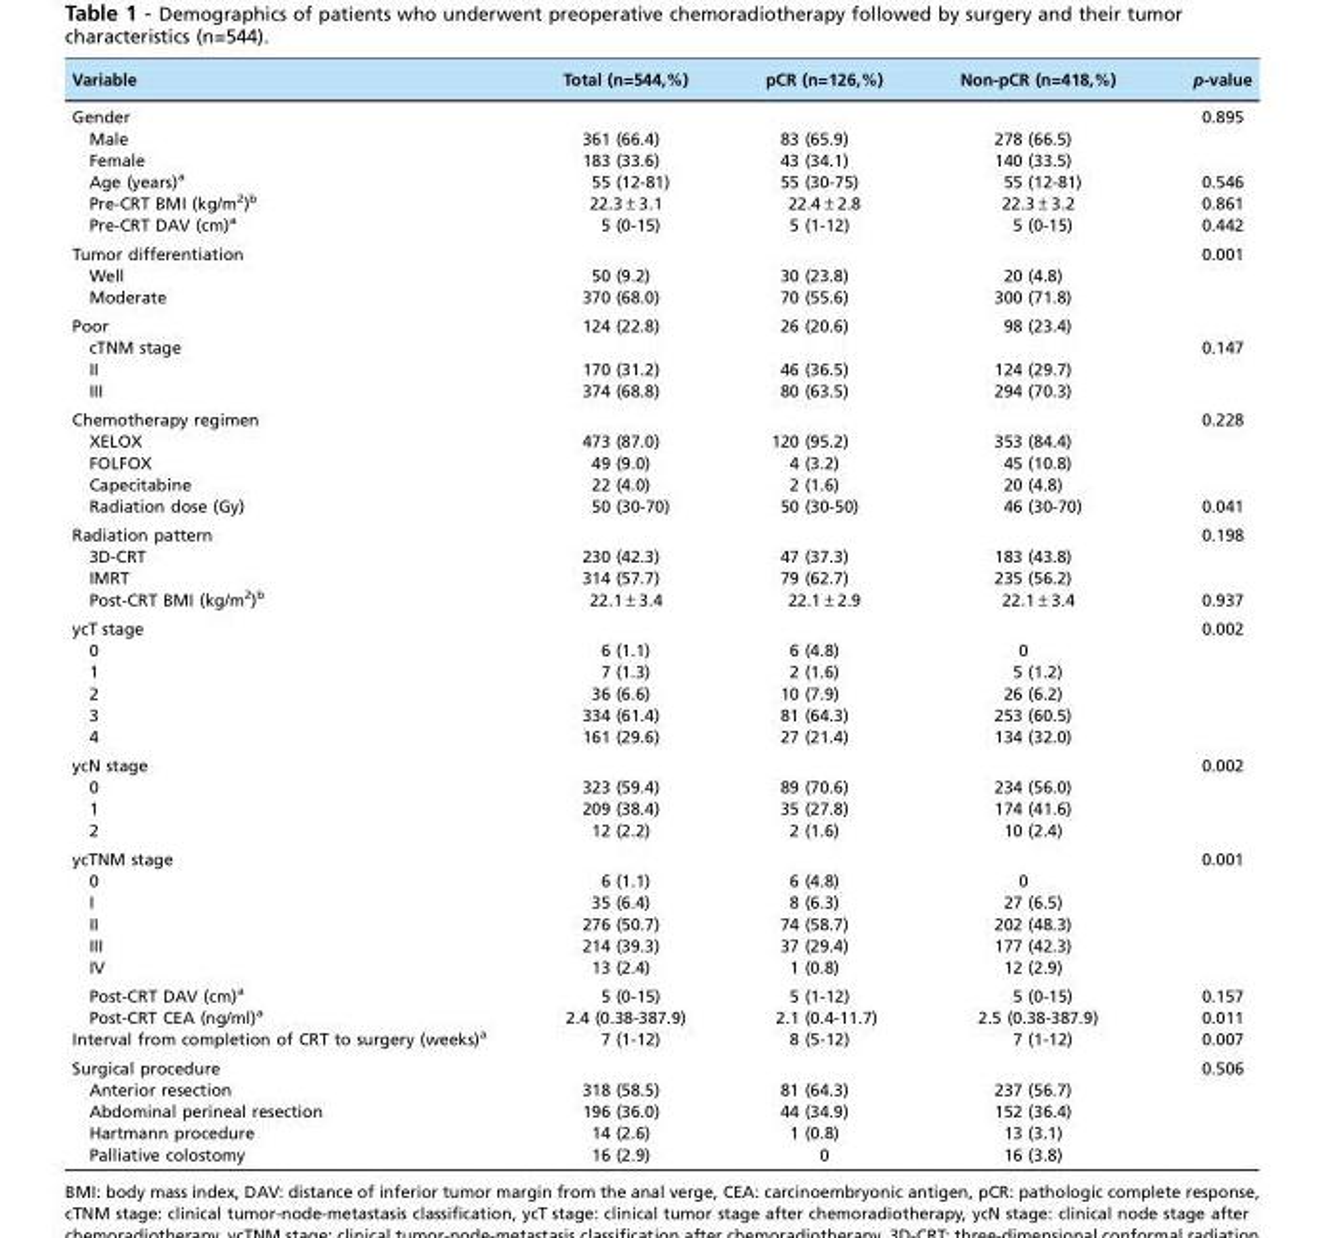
<table><thead><tr><td>Variable</td><td>Total (n=544,%)</td><td>pCR (n=126,%)</td><td>Non-pCR (n=418,%)</td><td>p-value</td></tr></thead><tbody><tr><td>Gender</td><td></td><td></td><td></td><td>0.895</td></tr><tr><td>Male</td><td>361 (66.4)</td><td>83 (65.9)</td><td>278 (66.5)</td><td></td></tr><tr><td>Female</td><td>183 (33.6)</td><td>43 (34.1)</td><td>140 (33.5)</td><td></td></tr><tr><td>Age (years)<sup>a</sup></td><td>55 (12-81)</td><td>55 (30-75)</td><td>55 (12-81)</td><td>0.546</td></tr><tr><td>Pre-CRT BMI (kg/m<sup>2</sup>)<sup>b</sup></td><td>22.3±3.1</td><td>22.4±2.8</td><td>22.3±3.2</td><td>0.861</td></tr><tr><td>Pre-CRT DAV (cm)<sup>a</sup></td><td>5 (0-15)</td><td>5 (1-12)</td><td>5 (0-15)</td><td>0.442</td></tr><tr><td>Tumor differentiation</td><td></td><td></td><td></td><td>0.001</td></tr><tr><td>Well</td><td>50 (9.2)</td><td>30 (23.8)</td><td>20 (4.8)</td><td></td></tr><tr><td>Moderate</td><td>370 (68.0)</td><td>70 (55.6)</td><td>300 (71.8)</td><td></td></tr><tr><td>Poor</td><td>124 (22.8)</td><td>26 (20.6)</td><td>98 (23.4)</td><td></td></tr><tr><td>cTNM stage</td><td></td><td></td><td></td><td>0.147</td></tr><tr><td>II</td><td>170 (31.2)</td><td>46 (36.5)</td><td>124 (29.7)</td><td></td></tr><tr><td>III</td><td>374 (68.8)</td><td>80 (63.5)</td><td>294 (70.3)</td><td></td></tr><tr><td>Chemotherapy regimen</td><td></td><td></td><td></td><td>0.228</td></tr><tr><td>XELOX</td><td>473 (87.0)</td><td>120 (95.2)</td><td>353 (84.4)</td><td></td></tr><tr><td>FOLFOX</td><td>49 (9.0)</td><td>4 (3.2)</td><td>45 (10.8)</td><td></td></tr><tr><td>Capecitabine</td><td>22 (4.0)</td><td>2 (1.6)</td><td>20 (4.8)</td><td></td></tr><tr><td>Radiation dose (Gy)</td><td>50 (30-70)</td><td>50 (30-50)</td><td>46 (30-70)</td><td>0.041</td></tr><tr><td>Radiation pattern</td><td></td><td></td><td></td><td>0.198</td></tr><tr><td>3D-CRT</td><td>230 (42.3)</td><td>47 (37.3)</td><td>183 (43.8)</td><td></td></tr><tr><td>IMRT</td><td>314 (57.7)</td><td>79 (62.7)</td><td>235 (56.2)</td><td></td></tr><tr><td>Post-CRT BMI (kg/m<sup>2</sup>)<sup>b</sup></td><td>22.1±3.4</td><td>22.1±2.9</td><td>22.1±3.4</td><td>0.937</td></tr><tr><td>ycT stage</td><td></td><td></td><td></td><td>0.002</td></tr><tr><td>0</td><td>6 (1.1)</td><td>6 (4.8)</td><td>0</td><td></td></tr><tr><td>1</td><td>7 (1.3)</td><td>2 (1.6)</td><td>5 (1.2)</td><td></td></tr><tr><td>2</td><td>36 (6.6)</td><td>10 (7.9)</td><td>26 (6.2)</td><td></td></tr><tr><td>3</td><td>334 (61.4)</td><td>81 (64.3)</td><td>253 (60.5)</td><td></td></tr><tr><td>4</td><td>161 (29.6)</td><td>27 (21.4)</td><td>134 (32.0)</td><td></td></tr><tr><td>ycN stage</td><td></td><td></td><td></td><td>0.002</td></tr><tr><td>0</td><td>323 (59.4)</td><td>89 (70.6)</td><td>234 (56.0)</td><td></td></tr><tr><td>1</td><td>209 (38.4)</td><td>35 (27.8)</td><td>174 (41.6)</td><td></td></tr><tr><td>2</td><td>12 (2.2)</td><td>2 (1.6)</td><td>10 (2.4)</td><td></td></tr><tr><td>ycTNM stage</td><td></td><td></td><td></td><td>0.001</td></tr><tr><td>0</td><td>6 (1.1)</td><td>6 (4.8)</td><td>0</td><td></td></tr><tr><td>I</td><td>35 (6.4)</td><td>8 (6.3)</td><td>27 (6.5)</td><td></td></tr><tr><td>II</td><td>276 (50.7)</td><td>74 (58.7)</td><td>202 (48.3)</td><td></td></tr><tr><td>III</td><td>214 (39.3)</td><td>37 (29.4)</td><td>177 (42.3)</td><td></td></tr><tr><td>IV</td><td>13 (2.4)</td><td>1 (0.8)</td><td>12 (2.9)</td><td></td></tr><tr><td>Post-CRT DAV (cm)<sup>a</sup></td><td>5 (0-15)</td><td>5 (1-12)</td><td>5 (0-15)</td><td>0.157</td></tr><tr><td>Post-CRT CEA (ng/ml)<sup>a</sup></td><td>2.4 (0.38-387.9)</td><td>2.1 (0.4-11.7)</td><td>2.5 (0.38-387.9)</td><td>0.011</td></tr><tr><td>Interval from completion of CRT to surgery (weeks)<sup>a</sup></td><td>7 (1-12)</td><td>8 (5-12)</td><td>7 (1-12)</td><td>0.007</td></tr><tr><td>Surgical procedure</td><td></td><td></td><td></td><td>0.506</td></tr><tr><td>Anterior resection</td><td>318 (58.5)</td><td>81 (64.3)</td><td>237 (56.7)</td><td></td></tr><tr><td>Abdominal perineal resection</td><td>196 (36.0)</td><td>44 (34.9)</td><td>152 (36.4)</td><td></td></tr><tr><td>Hartmann procedure</td><td>14 (2.6)</td><td>1 (0.8)</td><td>13 (3.1)</td><td></td></tr><tr><td>Palliative colostomy</td><td>16 (2.9)</td><td>0</td><td>16 (3.8)</td><td></td></tr></tbody></table>